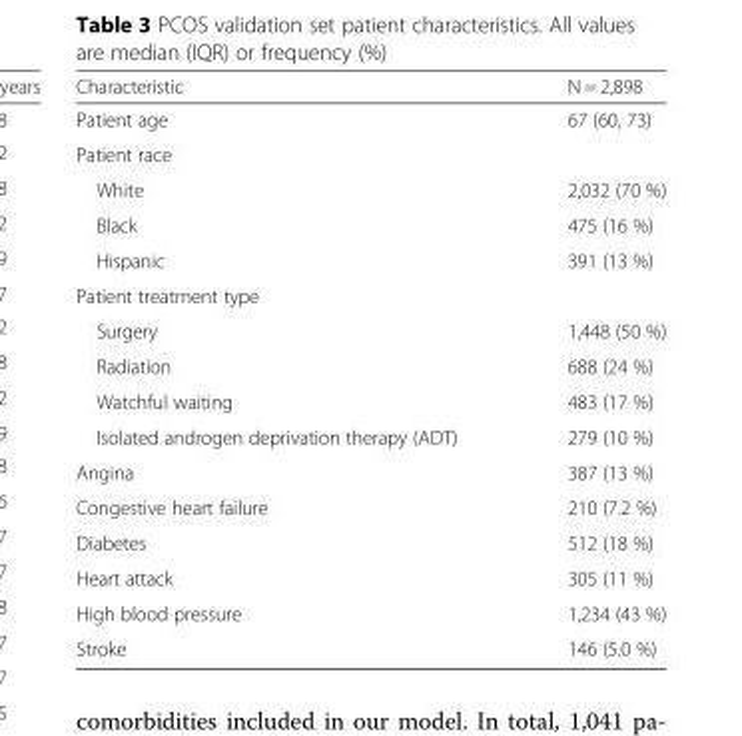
<table><thead><tr><td>Characteristic</td><td>N = 2,898</td></tr></thead><tbody><tr><td>Patient age</td><td>67 (60, 73)</td></tr><tr><td colspan="2">Patient race</td></tr><tr><td>White</td><td>2,032 (70 %)</td></tr><tr><td>Black</td><td>475 (16 %)</td></tr><tr><td>Hispanic</td><td>391 (13 %)</td></tr><tr><td colspan="2">Patient treatment type</td></tr><tr><td>Surgery</td><td>1,448 (50 %)</td></tr><tr><td>Radiation</td><td>688 (24 %)</td></tr><tr><td>Watchful waiting</td><td>483 (17 %)</td></tr><tr><td>Isolated androgen deprivation therapy (ADT)</td><td>279 (10 %)</td></tr><tr><td>Angina</td><td>387 (13 %)</td></tr><tr><td>Congestive heart failure</td><td>210 (7.2 %)</td></tr><tr><td>Diabetes</td><td>512 (18 %)</td></tr><tr><td>Heart attack</td><td>305 (11 %)</td></tr><tr><td>High blood pressure</td><td>1,234 (43 %)</td></tr><tr><td>Stroke</td><td>146 (5.0 %)</td></tr></tbody></table>